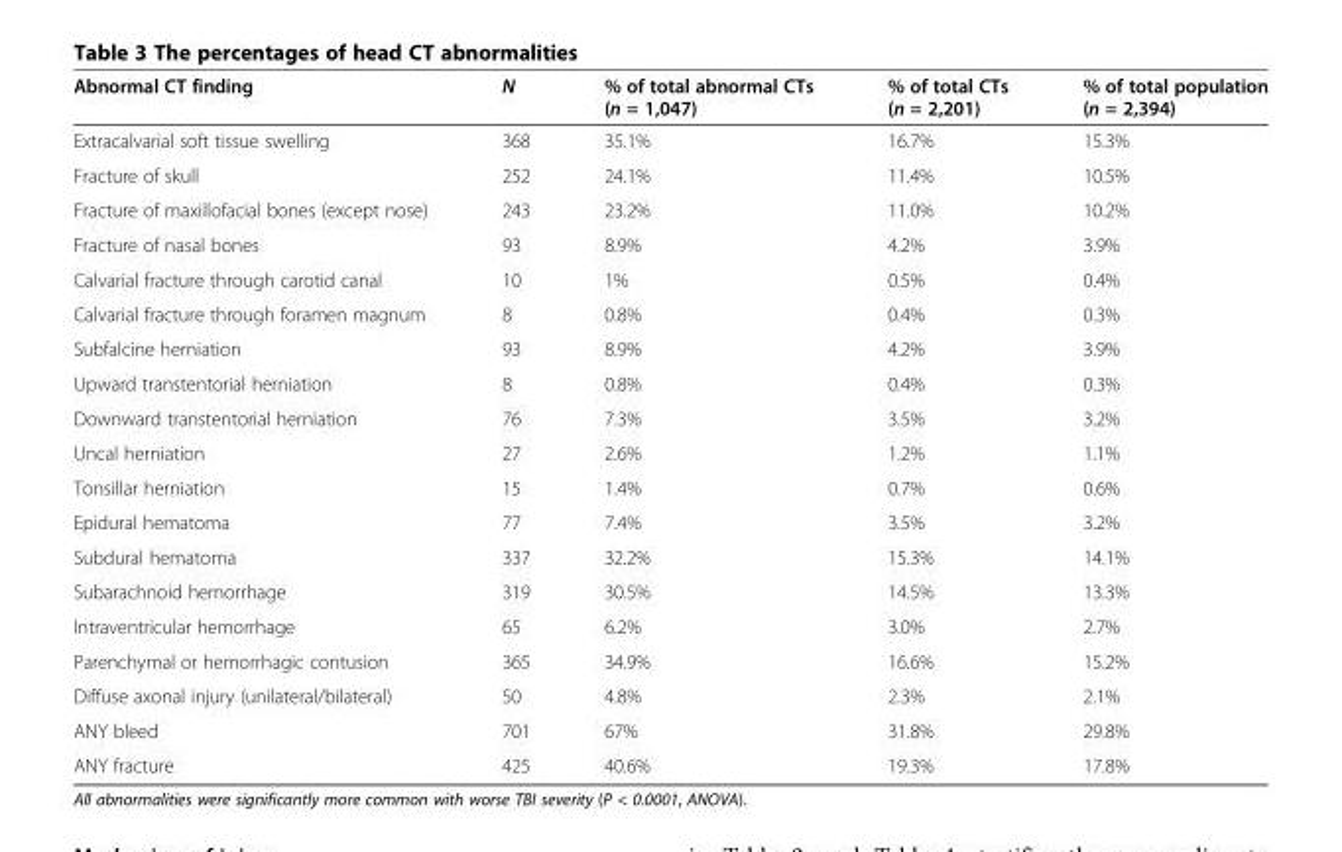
<table><thead><tr><td>Abnormal CT finding</td><td>N</td><td>% of total abnormal CTs (n = 1,047)</td><td>% of total CTs (n = 2,201)</td><td>% of total population (n = 2,394)</td></tr></thead><tbody><tr><td>Extracalvarial soft tissue swelling</td><td>368</td><td>35.1%</td><td>16.7%</td><td>15.3%</td></tr><tr><td>Fracture of skull</td><td>252</td><td>24.1%</td><td>11.4%</td><td>10.5%</td></tr><tr><td>Fracture of maxillofacial bones (except nose)</td><td>243</td><td>23.2%</td><td>11.0%</td><td>10.2%</td></tr><tr><td>Fracture of nasal bones</td><td>93</td><td>8.9%</td><td>4.2%</td><td>3.9%</td></tr><tr><td>Calvarial fracture through carotid canal</td><td>10</td><td>1%</td><td>0.5%</td><td>0.4%</td></tr><tr><td>Calvarial fracture through foramen magnum</td><td>8</td><td>0.8%</td><td>0.4%</td><td>0.3%</td></tr><tr><td>Subfalcine herniation</td><td>93</td><td>8.9%</td><td>4.2%</td><td>3.9%</td></tr><tr><td>Upward transtentorial herniation</td><td>8</td><td>0.8%</td><td>0.4%</td><td>0.3%</td></tr><tr><td>Downward transtentorial herniation</td><td>76</td><td>7.3%</td><td>3.5%</td><td>3.2%</td></tr><tr><td>Uncal herniation</td><td>27</td><td>2.6%</td><td>1.2%</td><td>1.1%</td></tr><tr><td>Tonsillar herniation</td><td>15</td><td>1.4%</td><td>0.7%</td><td>0.6%</td></tr><tr><td>Epidural hematoma</td><td>77</td><td>7.4%</td><td>3.5%</td><td>3.2%</td></tr><tr><td>Subdural hematoma</td><td>337</td><td>32.2%</td><td>15.3%</td><td>14.1%</td></tr><tr><td>Subarachnoid hemorrhage</td><td>319</td><td>30.5%</td><td>14.5%</td><td>13.3%</td></tr><tr><td>Intraventricular hemorrhage</td><td>65</td><td>6.2%</td><td>3.0%</td><td>2.7%</td></tr><tr><td>Parenchymal or hemorrhagic contusion</td><td>365</td><td>34.9%</td><td>16.6%</td><td>15.2%</td></tr><tr><td>Diffuse axonal injury (unilateral/bilateral)</td><td>50</td><td>4.8%</td><td>2.3%</td><td>2.1%</td></tr><tr><td>ANY bleed</td><td>701</td><td>67%</td><td>31.8%</td><td>29.8%</td></tr><tr><td>ANY fracture</td><td>425</td><td>40.6%</td><td>19.3%</td><td>17.8%</td></tr></tbody></table>